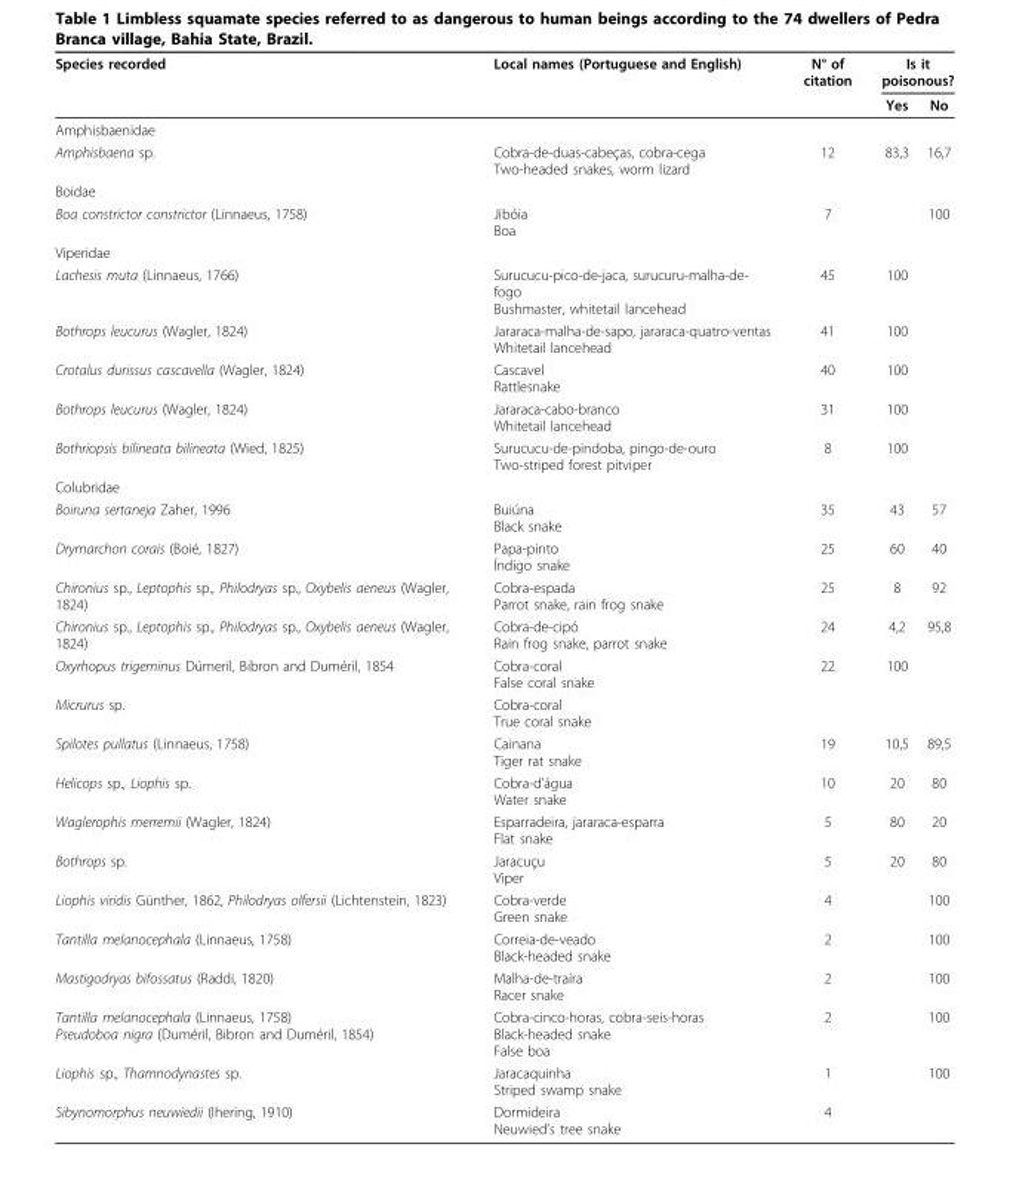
<table><thead><tr><td rowspan="2">Species recorded</td><td rowspan="2">Local names (Portuguese and English)</td><td rowspan="2">N° of citation</td><td colspan="2">Is it poisonous?</td></tr><tr><td>Yes</td><td>No</td></tr></thead><tbody><tr><td colspan="5">Amphisbaenidae</td></tr><tr><td>Amphisbaena sp.</td><td>Cobra-de-duas-cabeças, cobra-cega Two-headed snakes, worm lizard</td><td>12</td><td>83,3</td><td>16,7</td></tr><tr><td colspan="5">Boidae</td></tr><tr><td>Boa constrictor constrictor (Linnaeus, 1758)</td><td>Jibóia Boa</td><td>7</td><td></td><td>100</td></tr><tr><td colspan="5">Viperidae</td></tr><tr><td>Lachesis muta (Linnaeus, 1766)</td><td>Surucucu-pico-de-jaca, surucuru-malha-de- fogo Bushmaster, whitetail lancehead</td><td>45</td><td>100</td><td></td></tr><tr><td>Bothrops leucurus (Wagler, 1824)</td><td>Jararaca-malha-de-sapo, jararaca-quatro-ventas Whitetail lancehead</td><td>41</td><td>100</td><td></td></tr><tr><td>Crotalus durissus cascavella (Wagler, 1824)</td><td>Cascavel Rattlesnake</td><td>40</td><td>100</td><td></td></tr><tr><td>Bothrops leucurus (Wagler, 1824)</td><td>Jararaca-cabo-branco Whitetail lancehead</td><td>31</td><td>100</td><td></td></tr><tr><td>Bothriopsis bilineata bilineata (Wied, 1825)</td><td>Surucucu-de-pindoba, pingo-de-ouro Two-striped forest pitviper</td><td>8</td><td>100</td><td></td></tr><tr><td colspan="5">Colubridae</td></tr><tr><td>Boiruna sertaneja Zaher, 1996</td><td>Buiúna Black snake</td><td>35</td><td>43</td><td>57</td></tr><tr><td>Drymarchon corais (Boié, 1827)</td><td>Papa-pinto Índigo snake</td><td>25</td><td>60</td><td>40</td></tr><tr><td>Chironius sp., Leptophis sp., Philodryas sp., Oxybelis aeneus (Wagler, 1824)</td><td>Cobra-espada Parrot snake, rain frog snake</td><td>25</td><td>8</td><td>92</td></tr><tr><td>Chironius sp., Leptophis sp., Philodryas sp., Oxybelis aeneus (Wagler, 1824)</td><td>Cobra-de-cipó Rain frog snake, parrot snake</td><td>24</td><td>4,2</td><td>95,8</td></tr><tr><td>Oxyrhopus trigeminus Dúmeril, Bibron and Duméril, 1854</td><td>Cobra-coral False coral snake</td><td>22</td><td>100</td><td></td></tr><tr><td>Micrurus sp.</td><td>Cobra-coral True coral snake</td><td></td><td></td><td></td></tr><tr><td>Spilotes pullatus (Linnaeus, 1758)</td><td>Cainana Tiger rat snake</td><td>19</td><td>10,5</td><td>89,5</td></tr><tr><td>Helicops sp., Liophis sp.</td><td>Cobra-d’água Water snake</td><td>10</td><td>20</td><td>80</td></tr><tr><td>Waglerophis merremii (Wagler, 1824)</td><td>Esparradeira, jararaca-esparra Flat snake</td><td>5</td><td>80</td><td>20</td></tr><tr><td>Bothrops sp.</td><td>Jaracuçu Viper</td><td>5</td><td>20</td><td>80</td></tr><tr><td>Liophis viridis Günther, 1862, Philodryas olfersii (Lichtenstein, 1823)</td><td>Cobra-verde Green snake</td><td>4</td><td></td><td>100</td></tr><tr><td>Tantilla melanocephala (Linnaeus, 1758)</td><td>Correia-de-veado Black-headed snake</td><td>2</td><td></td><td>100</td></tr><tr><td>Mastigodryas bifossatus (Raddi, 1820)</td><td>Malha-de-traíra Racer snake</td><td>2</td><td></td><td>100</td></tr><tr><td>Tantilla melanocephala (Linnaeus, 1758) Pseudoboa nigra (Duméril, Bibron and Duméril, 1854)</td><td>Cobra-cinco-horas, cobra-seis-horas Black-headed snake False boa</td><td>2</td><td></td><td>100</td></tr><tr><td>Liophis sp., Thamnodynastes sp.</td><td>Jaracaquinha Striped swamp snake</td><td>1</td><td></td><td>100</td></tr><tr><td>Sibynomorphus neuwiedii (Ihering, 1910)</td><td>Dormideira Neuwied’s tree snake</td><td>4</td><td></td><td></td></tr></tbody></table>